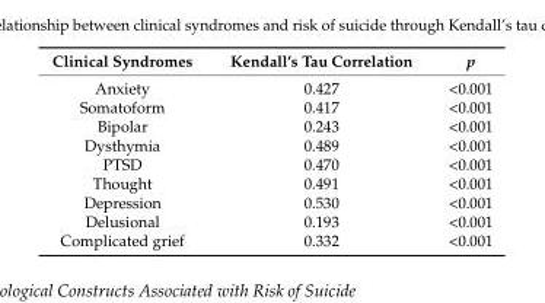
<table><thead><tr><td>Clinical Syndromes</td><td>Kendall’s Tau Correlation</td><td>p</td></tr></thead><tbody><tr><td>Anxiety</td><td>0.427</td><td>&lt;0.001</td></tr><tr><td>Somatoform</td><td>0.417</td><td>&lt;0.001</td></tr><tr><td>Bipolar</td><td>0.243</td><td>&lt;0.001</td></tr><tr><td>Dysthymia</td><td>0.489</td><td>&lt;0.001</td></tr><tr><td>PTSD</td><td>0.470</td><td>&lt;0.001</td></tr><tr><td>Thought</td><td>0.491</td><td>&lt;0.001</td></tr><tr><td>Depression</td><td>0.530</td><td>&lt;0.001</td></tr><tr><td>Delusional</td><td>0.193</td><td>&lt;0.001</td></tr><tr><td>Complicated grief</td><td>0.332</td><td>&lt;0.001</td></tr></tbody></table>